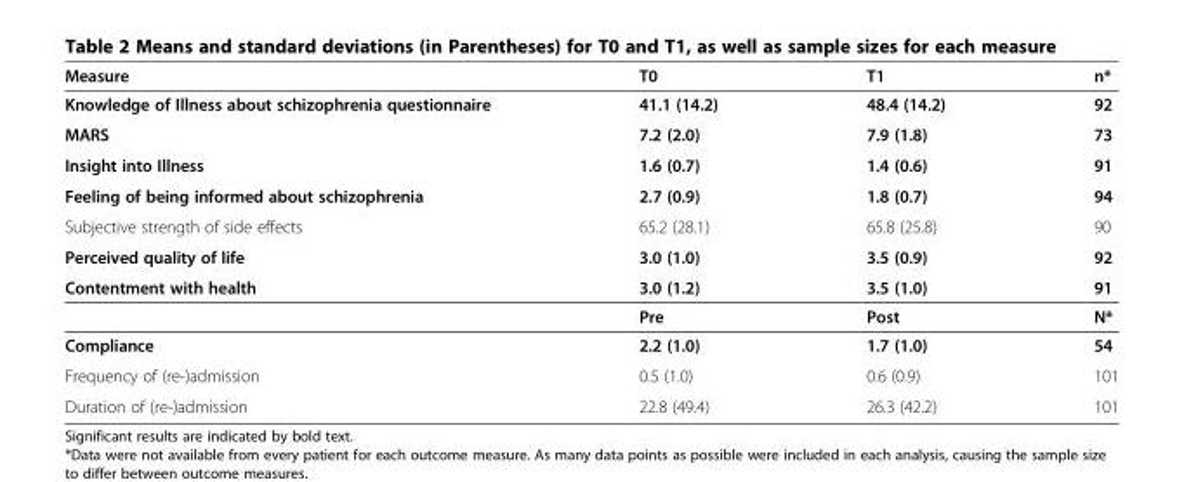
<table><thead><tr><td>Measure</td><td>T0</td><td>T1</td><td>n*</td></tr></thead><tbody><tr><td>Knowledge of Illness about schizophrenia questionnaire</td><td>41.1 (14.2)</td><td>48.4 (14.2)</td><td>92</td></tr><tr><td>MARS</td><td>7.2 (2.0)</td><td>7.9 (1.8)</td><td>73</td></tr><tr><td>Insight into Illness</td><td>1.6 (0.7)</td><td>1.4 (0.6)</td><td>91</td></tr><tr><td>Feeling of being informed about schizophrenia</td><td>2.7 (0.9)</td><td>1.8 (0.7)</td><td>94</td></tr><tr><td>Subjective strength of side effects</td><td>65.2 (28.1)</td><td>65.8 (25.8)</td><td>90</td></tr><tr><td>Perceived quality of life</td><td>3.0 (1.0)</td><td>3.5 (0.9)</td><td>92</td></tr><tr><td rowspan="2">Contentment with health</td><td>3.0 (1.2)</td><td>3.5 (1.0)</td><td>91</td></tr><tr><td>Pre</td><td>Post</td><td>N*</td></tr><tr><td>Compliance</td><td>2.2 (1.0)</td><td>1.7 (1.0)</td><td>54</td></tr><tr><td>Frequency of (re-)admission</td><td>0.5 (1.0)</td><td>0.6 (0.9)</td><td>101</td></tr><tr><td>Duration of (re-)admission</td><td>22.8 (49.4)</td><td>26.3 (42.2)</td><td>101</td></tr></tbody></table>